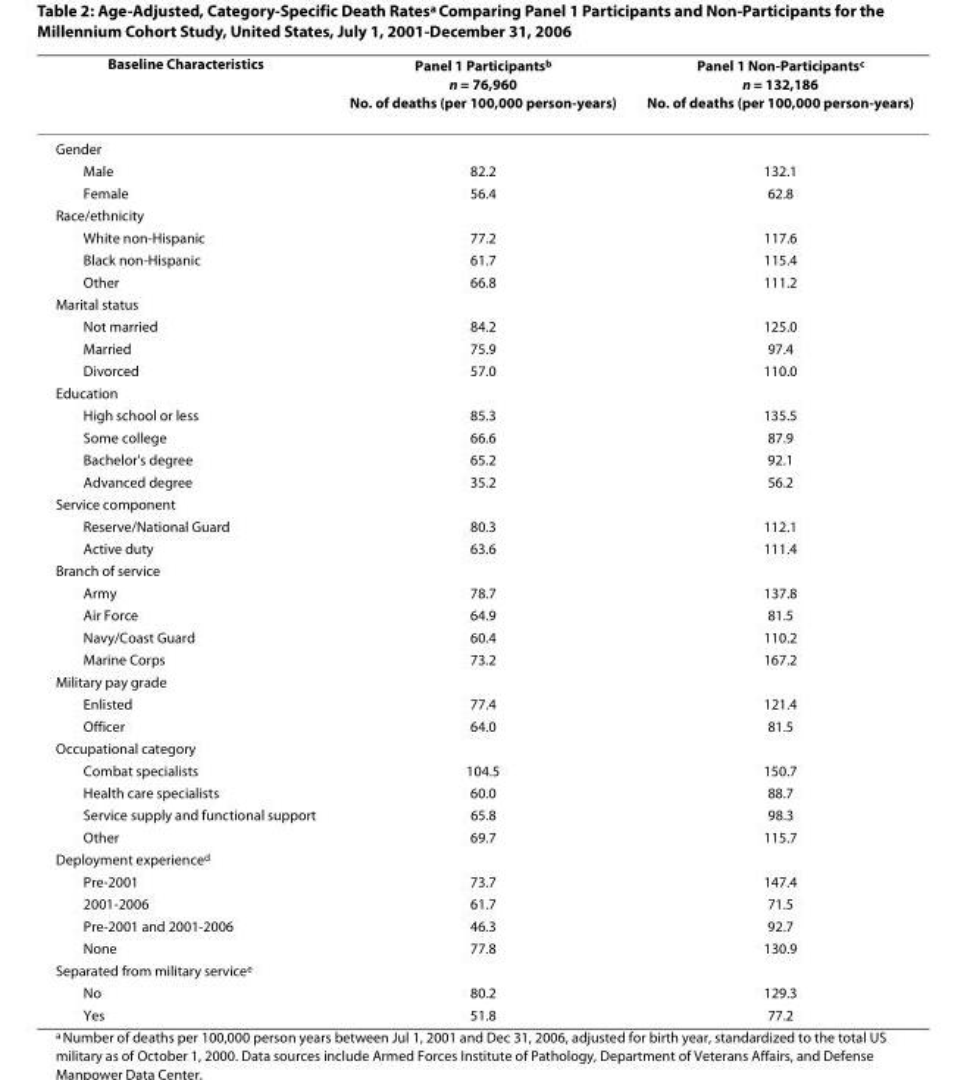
<table><thead><tr><td>Baseline Characteristics</td><td>Panel 1 Participants<sup>b</sup> n = 76,960 No. of deaths (per 100,000 person-years)</td><td>Panel 1 Non-Participants<sup>c</sup> n = 132,186 No. of deaths (per 100,000 person-years)</td></tr></thead><tbody><tr><td colspan="3">Gender</td></tr><tr><td>Male</td><td>82.2</td><td>132.1</td></tr><tr><td>Female</td><td>56.4</td><td>62.8</td></tr><tr><td colspan="3">Race/ethnicity</td></tr><tr><td>White non-Hispanic</td><td>77.2</td><td>117.6</td></tr><tr><td>Black non-Hispanic</td><td>61.7</td><td>115.4</td></tr><tr><td>Other</td><td>66.8</td><td>111.2</td></tr><tr><td colspan="3">Marital status</td></tr><tr><td>Not married</td><td>84.2</td><td>125.0</td></tr><tr><td>Married</td><td>75.9</td><td>97.4</td></tr><tr><td>Divorced</td><td>57.0</td><td>110.0</td></tr><tr><td colspan="3">Education</td></tr><tr><td>High school or less</td><td>85.3</td><td>135.5</td></tr><tr><td>Some college</td><td>66.6</td><td>87.9</td></tr><tr><td>Bachelor&#x27;s degree</td><td>65.2</td><td>92.1</td></tr><tr><td>Advanced degree</td><td>35.2</td><td>56.2</td></tr><tr><td colspan="3">Service component</td></tr><tr><td>Reserve/National Guard</td><td>80.3</td><td>112.1</td></tr><tr><td>Active duty</td><td>63.6</td><td>111.4</td></tr><tr><td colspan="3">Branch of service</td></tr><tr><td>Army</td><td>78.7</td><td>137.8</td></tr><tr><td>Air Force</td><td>64.9</td><td>81.5</td></tr><tr><td>Navy/Coast Guard</td><td>60.4</td><td>110.2</td></tr><tr><td>Marine Corps</td><td>73.2</td><td>167.2</td></tr><tr><td colspan="3">Military pay grade</td></tr><tr><td>Enlisted</td><td>77.4</td><td>121.4</td></tr><tr><td>Officer</td><td>64.0</td><td>81.5</td></tr><tr><td colspan="3">Occupational category</td></tr><tr><td>Combat specialists</td><td>104.5</td><td>150.7</td></tr><tr><td>Health care specialists</td><td>60.0</td><td>88.7</td></tr><tr><td>Service supply and functional support</td><td>65.8</td><td>98.3</td></tr><tr><td>Other</td><td>69.7</td><td>115.7</td></tr><tr><td colspan="3">Deployment experience<sup>d</sup></td></tr><tr><td>Pre-2001</td><td>73.7</td><td>147.4</td></tr><tr><td>2001-2006</td><td>61.7</td><td>71.5</td></tr><tr><td>Pre-2001 and 2001-2006</td><td>46.3</td><td>92.7</td></tr><tr><td>None</td><td>77.8</td><td>130.9</td></tr><tr><td colspan="3">Separated from military service<sup>e</sup></td></tr><tr><td>No</td><td>80.2</td><td>129.3</td></tr><tr><td>Yes</td><td>51.8</td><td>77.2</td></tr></tbody></table>